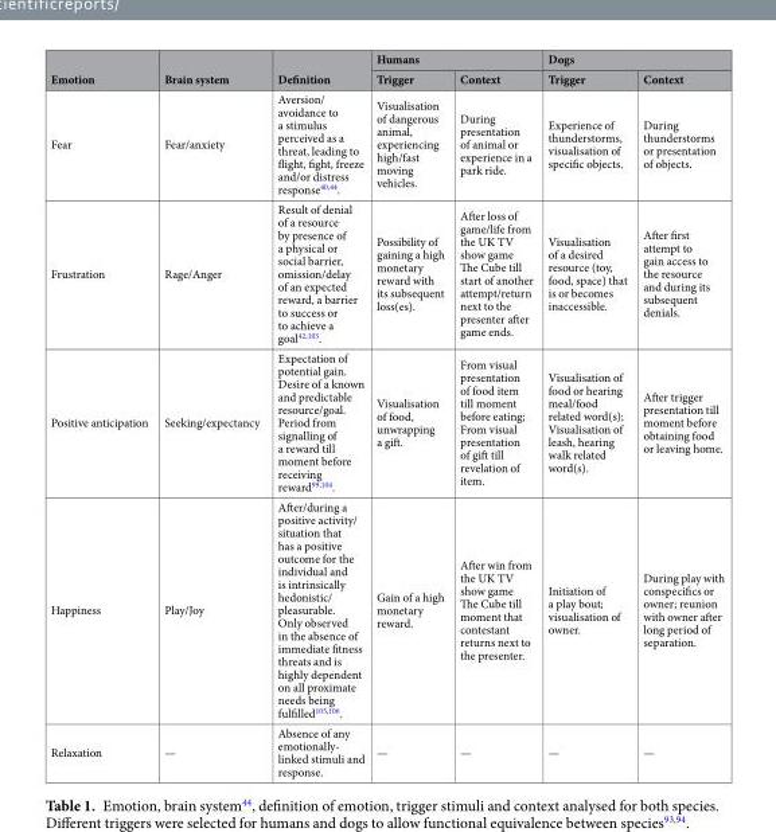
<table><thead><tr><td rowspan="2">Emotion</td><td rowspan="2">Brain system</td><td rowspan="2">Definition</td><td colspan="2">Humans</td><td colspan="2">Dogs</td></tr><tr><td>Trigger</td><td>Context</td><td>Trigger</td><td>Context</td></tr></thead><tbody><tr><td>Fear</td><td>Fear/anxiety</td><td>Aversion/ avoidance to a stimulus perceived as a threat, leading to flight, fight, freeze and/or distress response<sup>40,44</sup>.</td><td>Visualisation of dangerous animal, experiencing high/fast moving vehicles.</td><td>During presentation of animal or experience in a park ride.</td><td>Experience of thunderstorms, visualisation of specific objects.</td><td>During thunderstorms or presentation of objects.</td></tr><tr><td>Frustration</td><td>Rage/Anger</td><td>Result of denial of a resource by presence of a physical or social barrier, omission/delay of an expected reward, a barrier to success or to achieve a goal<sup>42,103</sup>.</td><td>Possibility of gaining a high monetary reward with its subsequent loss(es).</td><td>After loss of game/life from the UK TV show game The Cube till start of another attempt/return next to the presenter after game ends.</td><td>Visualisation of a desired resource (toy, food, space) that is or becomes inaccessible.</td><td>After first attempt to gain access to the resource and during its subsequent denials.</td></tr><tr><td>Positive anticipation</td><td>Seeking/expectancy</td><td>Expectation of potential gain. Desire of a known and predictable resource/goal. Period from signalling of a reward till moment before receiving reward<sup>99,104</sup>.</td><td>Visualisation of food, unwrapping a gift.</td><td>From visual presentation of food item till moment before eating; From visual presentation of gift till revelation of item.</td><td>Visualisation of food or hearing meal/food related word(s); Visualisation of leash, hearing walk related word(s).</td><td>After trigger presentation till moment before obtaining food or leaving home.</td></tr><tr><td>Happiness</td><td>Play/Joy</td><td>After/during a positive activity/ situation that has a positive outcome for the individual and is intrinsically hedonistic/ pleasurable. Only observed in the absence of immediate fitness threats and is highly dependent on all proximate needs being fulfilled<sup>105,106</sup>.</td><td>Gain of a high monetary reward.</td><td>After win from the UK TV show game The Cube till moment that contestant returns next to the presenter.</td><td>Initiation of a play bout; visualisation of owner.</td><td>During play with conspecifics or owner; reunion with owner after long period of separation.</td></tr><tr><td>Relaxation</td><td>—</td><td>Absence of any emotionally- linked stimuli and response.</td><td>—</td><td>—</td><td>—</td><td>—</td></tr></tbody></table>